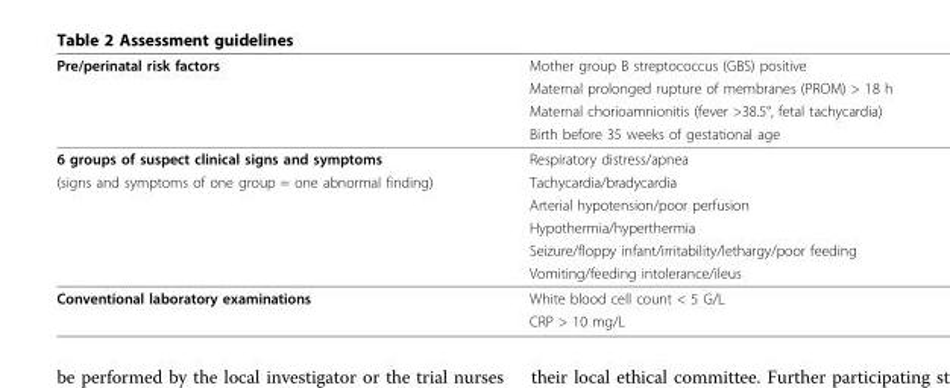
<table><thead><tr><td rowspan="4">Pre/perinatal risk factors</td><td rowspan="4">Mother group B streptococcus (GBS) positive Maternal prolonged rupture of membranes (PROM) &gt; 18 h Maternal chorioamnionitis (fever &gt;38.5°, fetal tachycardia) Birth before 35 weeks of gestational age</td></tr><tr></tr><tr></tr><tr></tr></thead><tbody><tr><td>6 groups of suspect clinical signs and symptoms</td><td>Respiratory distress/apnea</td></tr><tr><td rowspan="5">(signs and symptoms of one group = one abnormal finding)</td><td>Tachycardia/bradycardia</td></tr><tr><td>Arterial hypotension/poor perfusion</td></tr><tr><td>Hypothermia/hyperthermia</td></tr><tr><td>Seizure/floppy infant/irritability/lethargy/poor feeding</td></tr><tr><td>Vomiting/feeding intolerance/ileus</td></tr><tr><td rowspan="2">Conventional laboratory examinations</td><td>White blood cell count &lt; 5 G/L</td></tr><tr><td>CRP &gt; 10 mg/L</td></tr></tbody></table>